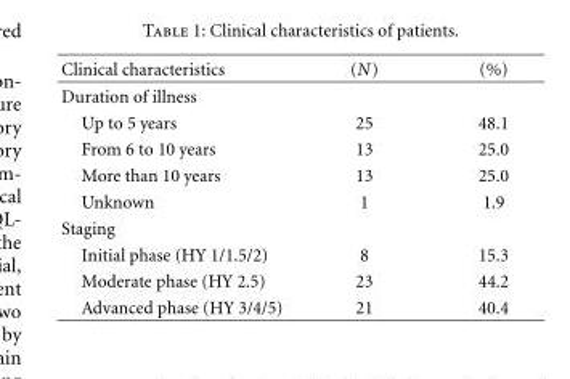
<table><thead><tr><td>Clinical characteristics</td><td>(N)</td><td>(%)</td></tr></thead><tbody><tr><td colspan="3">Duration of illness</td></tr><tr><td>Up to 5 years</td><td>25</td><td>48.1</td></tr><tr><td>From 6 to 10 years</td><td>13</td><td>25.0</td></tr><tr><td>More than 10 years</td><td>13</td><td>25.0</td></tr><tr><td>Unknown</td><td>1</td><td>1.9</td></tr><tr><td colspan="3">Staging</td></tr><tr><td>Initial phase (HY 1/1.5/2)</td><td>8</td><td>15.3</td></tr><tr><td>Moderate phase (HY 2.5)</td><td>23</td><td>44.2</td></tr><tr><td>Advanced phase (HY 3/4/5)</td><td>21</td><td>40.4</td></tr></tbody></table>